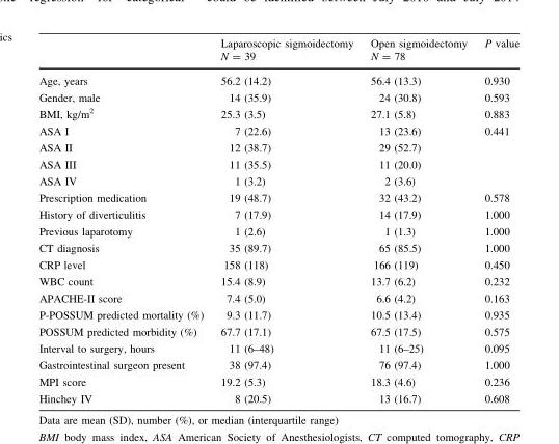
<table><thead><tr><td></td><td>Laparoscopic sigmoidectomy N = 39</td><td>Open sigmoidectomy N = 78</td><td>P value</td></tr></thead><tbody><tr><td>Age, years</td><td>56.2 (14.2)</td><td>56.4 (13.3)</td><td>0.930</td></tr><tr><td>Gender, male</td><td>14 (35.9)</td><td>24 (30.8)</td><td>0.593</td></tr><tr><td>BMI, kg/m<sup>2</sup></td><td>25.3 (3.5)</td><td>27.1 (5.8)</td><td>0.883</td></tr><tr><td>ASA I</td><td>7 (22.6)</td><td>13 (23.6)</td><td rowspan="4">0.441</td></tr><tr><td>ASA II</td><td>12 (38.7)</td><td>29 (52.7)</td></tr><tr><td>ASA III</td><td>11 (35.5)</td><td>11 (20.0)</td></tr><tr><td>ASA IV</td><td>1 (3.2)</td><td>2 (3.6)</td></tr><tr><td>Prescription medication</td><td>19 (48.7)</td><td>32 (43.2)</td><td>0.578</td></tr><tr><td>History of diverticulitis</td><td>7 (17.9)</td><td>14 (17.9)</td><td>1.000</td></tr><tr><td>Previous laparotomy</td><td>1 (2.6)</td><td>1 (1.3)</td><td>1.000</td></tr><tr><td>CT diagnosis</td><td>35 (89.7)</td><td>65 (85.5)</td><td>1.000</td></tr><tr><td>CRP level</td><td>158 (118)</td><td>166 (119)</td><td>0.450</td></tr><tr><td>WBC count</td><td>15.4 (8.9)</td><td>13.7 (6.2)</td><td>0.232</td></tr><tr><td>APACHE-II score</td><td>7.4 (5.0)</td><td>6.6 (4.2)</td><td>0.163</td></tr><tr><td>P-POSSUM predicted mortality (%)</td><td>9.3 (11.7)</td><td>10.5 (13.4)</td><td>0.935</td></tr><tr><td>POSSUM predicted morbidity (%)</td><td>67.7 (17.1)</td><td>67.5 (17.5)</td><td>0.575</td></tr><tr><td>Interval to surgery, hours</td><td>11 (6–48)</td><td>11 (6–25)</td><td>0.095</td></tr><tr><td>Gastrointestinal surgeon present</td><td>38 (97.4)</td><td>76 (97.4)</td><td>1.000</td></tr><tr><td>MPI score</td><td>19.2 (5.3)</td><td>18.3 (4.6)</td><td>0.236</td></tr><tr><td>Hinchey IV</td><td>8 (20.5)</td><td>13 (16.7)</td><td>0.608</td></tr></tbody></table>